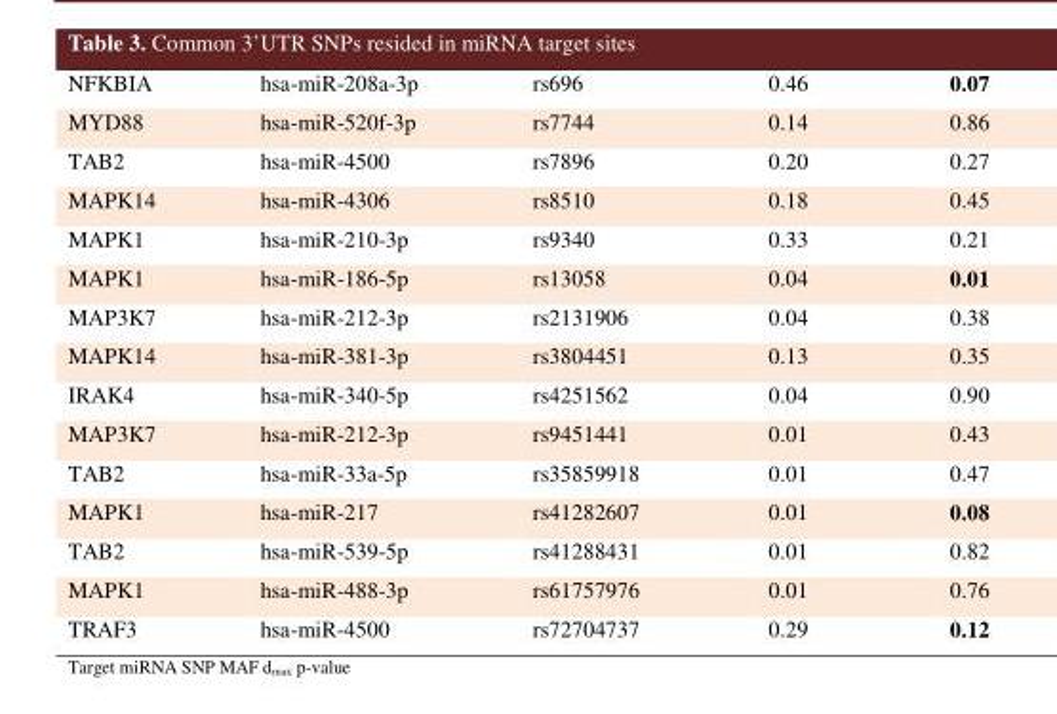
<table><tbody><tr><td>NFKBIA</td><td>hsa-miR-208a-3p</td><td>rs696</td><td>0.46</td><td>0.07</td></tr><tr><td>MYD88</td><td>hsa-miR-520f-3p</td><td>rs7744</td><td>0.14</td><td>0.86</td></tr><tr><td>TAB2</td><td>hsa-miR-4500</td><td>rs7896</td><td>0.20</td><td>0.27</td></tr><tr><td>MAPK14</td><td>hsa-miR-4306</td><td>rs8510</td><td>0.18</td><td>0.45</td></tr><tr><td>MAPK1</td><td>hsa-miR-210-3p</td><td>rs9340</td><td>0.33</td><td>0.21</td></tr><tr><td>MAPK1</td><td>hsa-miR-186-5p</td><td>rs13058</td><td>0.04</td><td>0.01</td></tr><tr><td>MAP3K7</td><td>hsa-miR-212-3p</td><td>rs2131906</td><td>0.04</td><td>0.38</td></tr><tr><td>MAPK14</td><td>hsa-miR-381-3p</td><td>rs3804451</td><td>0.13</td><td>0.35</td></tr><tr><td>IRAK4</td><td>hsa-miR-340-5p</td><td>rs4251562</td><td>0.04</td><td>0.90</td></tr><tr><td>MAP3K7</td><td>hsa-miR-212-3p</td><td>rs9451441</td><td>0.01</td><td>0.43</td></tr><tr><td>TAB2</td><td>hsa-miR-33a-5p</td><td>rs35859918</td><td>0.01</td><td>0.47</td></tr><tr><td>MAPK1</td><td>hsa-miR-217</td><td>rs41282607</td><td>0.01</td><td>0.08</td></tr><tr><td>TAB2</td><td>hsa-miR-539-5p</td><td>rs41288431</td><td>0.01</td><td>0.82</td></tr><tr><td>MAPK1</td><td>hsa-miR-488-3p</td><td>rs61757976</td><td>0.01</td><td>0.76</td></tr><tr><td>TRAF3</td><td>hsa-miR-4500</td><td>rs72704737</td><td>0.29</td><td>0.12</td></tr></tbody></table>